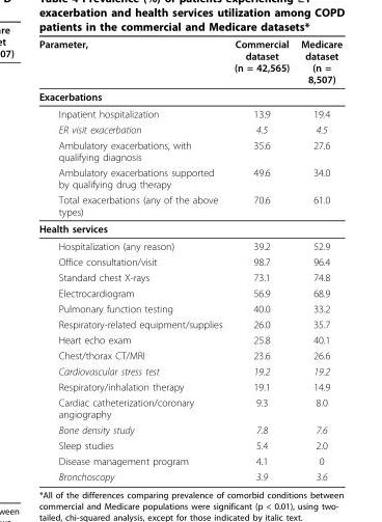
<table><thead><tr><td>Parameter,</td><td>Commercial dataset (n = 42,565)</td><td>Medicare dataset (n = 8,507)</td></tr></thead><tbody><tr><td colspan="3">Exacerbations</td></tr><tr><td>Inpatient hospitalization</td><td>13.9</td><td>19.4</td></tr><tr><td>ER visit exacerbation</td><td>4.5</td><td>4.5</td></tr><tr><td>Ambulatory exacerbations, with qualifying diagnosis</td><td>35.6</td><td>27.6</td></tr><tr><td>Ambulatory exacerbations supported by qualifying drug therapy</td><td>49.6</td><td>34.0</td></tr><tr><td>Total exacerbations (any of the above types)</td><td>70.6</td><td>61.0</td></tr><tr><td colspan="3">Health services</td></tr><tr><td>Hospitalization (any reason)</td><td>39.2</td><td>52.9</td></tr><tr><td>Office consultation/visit</td><td>98.7</td><td>96.4</td></tr><tr><td>Standard chest X-rays</td><td>73.1</td><td>74.8</td></tr><tr><td>Electrocardiogram</td><td>56.9</td><td>68.9</td></tr><tr><td>Pulmonary function testing</td><td>40.0</td><td>33.2</td></tr><tr><td>Respiratory-related equipment/supplies</td><td>26.0</td><td>35.7</td></tr><tr><td>Heart echo exam</td><td>25.8</td><td>40.1</td></tr><tr><td>Chest/thorax CT/MRI</td><td>23.6</td><td>26.6</td></tr><tr><td>Cardiovascular stress test</td><td>19.2</td><td>19.2</td></tr><tr><td>Respiratory/inhalation therapy</td><td>19.1</td><td>14.9</td></tr><tr><td>Cardiac catheterization/coronary angiography</td><td>9.3</td><td>8.0</td></tr><tr><td>Bone density study</td><td>7.8</td><td>7.6</td></tr><tr><td>Sleep studies</td><td>5.4</td><td>2.0</td></tr><tr><td>Disease management program</td><td>4.1</td><td>0</td></tr><tr><td>Bronchoscopy</td><td>3.9</td><td>3.6</td></tr></tbody></table>